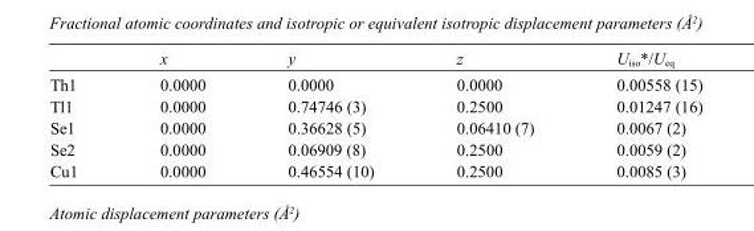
<table><thead><tr><td></td><td>x</td><td>y</td><td>z</td><td>U<sub>iso</sub>*/U<sub>eq</sub></td></tr></thead><tbody><tr><td>Th1</td><td>0.0000</td><td>0.0000</td><td>0.0000</td><td>0.00558 (15)</td></tr><tr><td>Tl1</td><td>0.0000</td><td>0.74746 (3)</td><td>0.2500</td><td>0.01247 (16)</td></tr><tr><td>Se1</td><td>0.0000</td><td>0.36628 (5)</td><td>0.06410 (7)</td><td>0.0067 (2)</td></tr><tr><td>Se2</td><td>0.0000</td><td>0.06909 (8)</td><td>0.2500</td><td>0.0059 (2)</td></tr><tr><td>Cu1</td><td>0.0000</td><td>0.46554 (10)</td><td>0.2500</td><td>0.0085 (3)</td></tr></tbody></table>